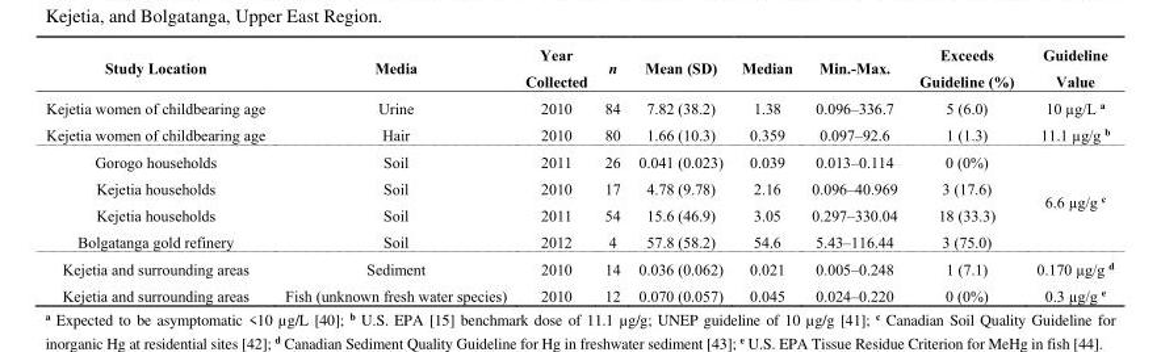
<table><thead><tr><td>Study Location</td><td>Media</td><td>Year Collected</td><td>n</td><td>Mean (SD)</td><td>Median</td><td>Min.-Max.</td><td>Exceeds Guideline (%)</td><td>Guideline Value</td></tr></thead><tbody><tr><td>Kejetia women of childbearing age</td><td>Urine</td><td>2010</td><td>84</td><td>7.82 (38.2)</td><td>1.38</td><td>0.096–336.7</td><td>5 (6.0)</td><td>10 µg/L <sup>a</sup></td></tr><tr><td>Kejetia women of childbearing age</td><td>Hair</td><td>2010</td><td>80</td><td>1.66 (10.3)</td><td>0.359</td><td>0.097–92.6</td><td>1 (1.3)</td><td>11.1 µg/g <sup>b</sup></td></tr><tr><td>Gorogo households</td><td>Soil</td><td>2011</td><td>26</td><td>0.041 (0.023)</td><td>0.039</td><td>0.013–0.114</td><td>0 (0%)</td><td rowspan="4">6.6 µg/g <sup>c</sup></td></tr><tr><td>Kejetia households</td><td>Soil</td><td>2010</td><td>17</td><td>4.78 (9.78)</td><td>2.16</td><td>0.096–40.969</td><td>3 (17.6)</td></tr><tr><td>Kejetia households</td><td>Soil</td><td>2011</td><td>54</td><td>15.6 (46.9)</td><td>3.05</td><td>0.297–330.04</td><td>18 (33.3)</td></tr><tr><td>Bolgatanga gold refinery</td><td>Soil</td><td>2012</td><td>4</td><td>57.8 (58.2)</td><td>54.6</td><td>5.43–116.44</td><td>3 (75.0)</td></tr><tr><td>Kejetia and surrounding areas</td><td>Sediment</td><td>2010</td><td>14</td><td>0.036 (0.062)</td><td>0.021</td><td>0.005–0.248</td><td>1 (7.1)</td><td>0.170 µg/g <sup>d</sup></td></tr><tr><td>Kejetia and surrounding areas</td><td>Fish (unknown fresh water species)</td><td>2010</td><td>12</td><td>0.070 (0.057)</td><td>0.045</td><td>0.024–0.220</td><td>0 (0%)</td><td>0.3 µg/g <sup>e</sup></td></tr></tbody></table>